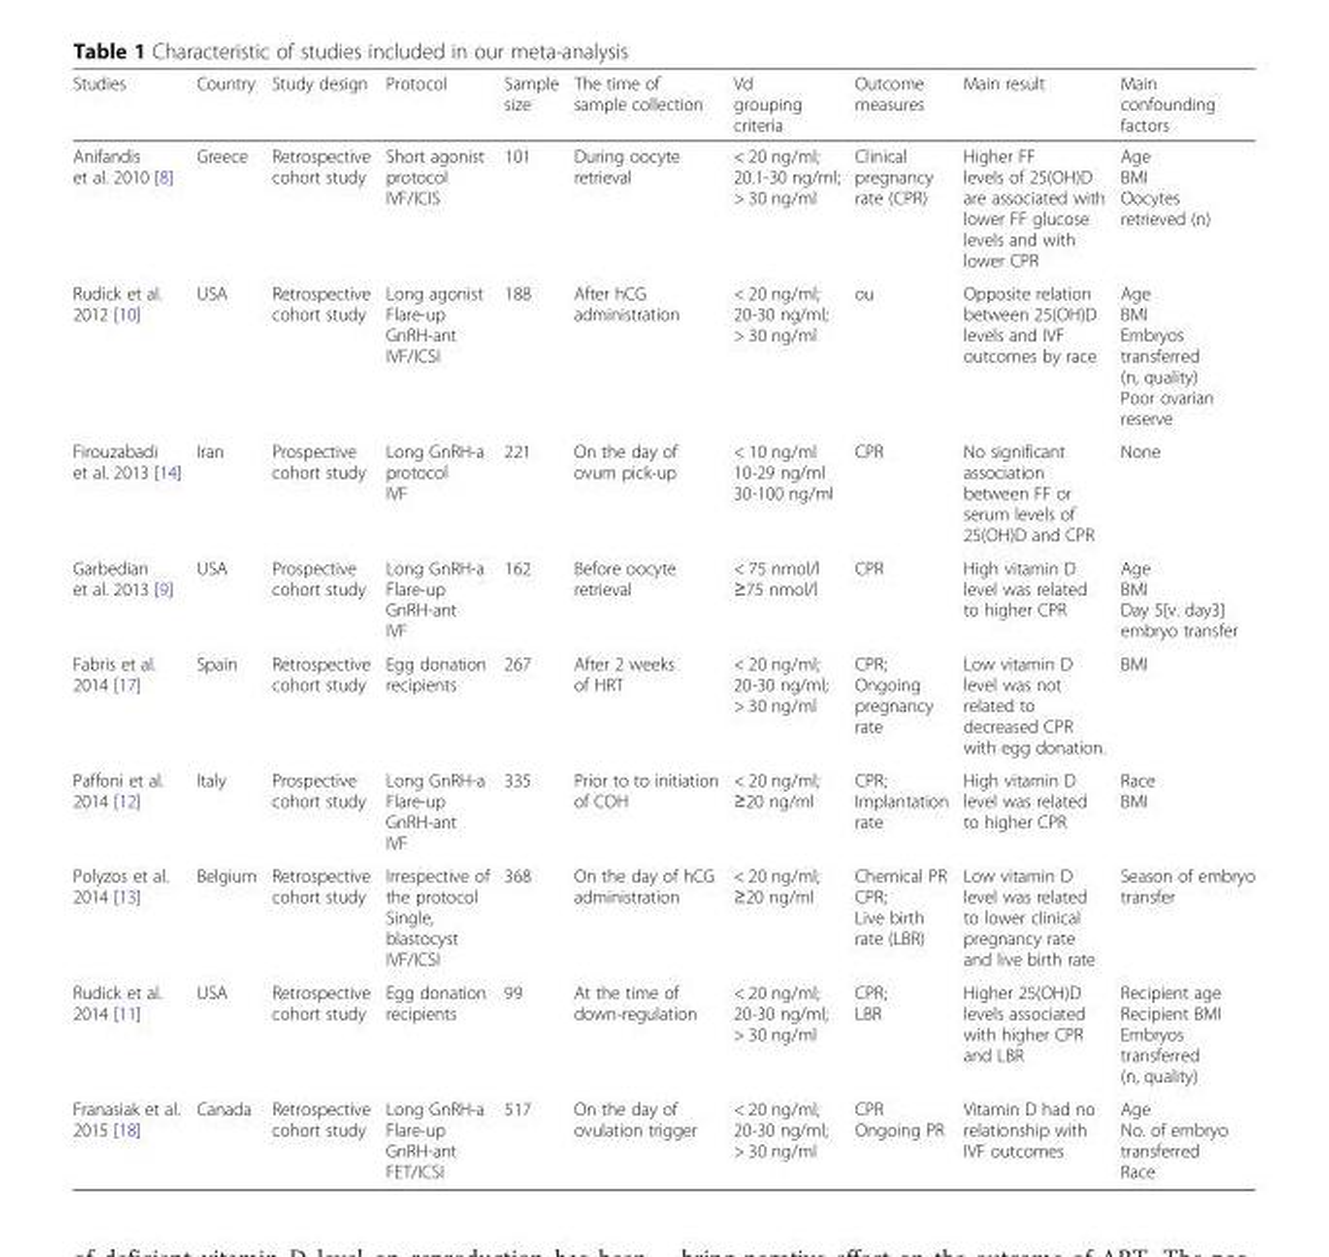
<table><thead><tr><td>Studies</td><td>Country</td><td>Study design</td><td>Protocol</td><td>Sample size</td><td>The time of sample collection</td><td>Vd grouping criteria</td><td>Outcome measures</td><td>Main result</td><td>Main confounding factors</td></tr></thead><tbody><tr><td>Anifandis et al. 2010 [8]</td><td>Greece</td><td>Retrospective cohort study</td><td>Short agonist protocol IVF/ICIS</td><td>101</td><td>During oocyte retrieval</td><td>&lt; 20 ng/ml; 20.1-30 ng/ml; &gt; 30 ng/ml</td><td>Clinical pregnancy rate (CPR)</td><td>Higher FF levels of 25(OH)D are associated with lower FF glucose levels and with lower CPR</td><td>Age BMI Oocytes retrieved (n)</td></tr><tr><td>Rudick et al. 2012 [10]</td><td>USA</td><td>Retrospective cohort study</td><td>Long agonist Flare-up GnRH-ant IVF/ICSI</td><td>188</td><td>After hCG administration</td><td>&lt; 20 ng/ml; 20-30 ng/ml; &gt; 30 ng/ml</td><td>ou</td><td>Opposite relation between 25(OH)D levels and IVF outcomes by race</td><td>Age BMI Embryos transferred (n, quality) Poor ovarian reserve</td></tr><tr><td>Firouzabadi et al. 2013 [14]</td><td>Iran</td><td>Prospective cohort study</td><td>Long GnRH-a protocol IVF</td><td>221</td><td>On the day of ovum pick-up</td><td>&lt; 10 ng/ml 10-29 ng/ml 30-100 ng/ml</td><td>CPR</td><td>No significant association between FF or serum levels of 25(OH)D and CPR</td><td>None</td></tr><tr><td>Garbedian et al. 2013 [9]</td><td>USA</td><td>Prospective cohort study</td><td>Long GnRH-a Flare-up GnRH-ant IVF</td><td>162</td><td>Before oocyte retrieval</td><td>&lt; 75 nmol/l ≥75 nmol/l</td><td>CPR</td><td>High vitamin D level was related to higher CPR</td><td>Age BMI Day 5[v. day3] embryo transfer</td></tr><tr><td>Fabris et al. 2014 [17]</td><td>Spain</td><td>Retrospective cohort study</td><td>Egg donation recipients</td><td>267</td><td>After 2 weeks of HRT</td><td>&lt; 20 ng/ml; 20-30 ng/ml; &gt; 30 ng/ml</td><td>CPR; Ongoing pregnancy rate</td><td>Low vitamin D level was not related to decreased CPR with egg donation.</td><td>BMI</td></tr><tr><td>Paffoni et al. 2014 [12]</td><td>Italy</td><td>Prospective cohort study</td><td>Long GnRH-a Flare-up GnRH-ant IVF</td><td>335</td><td>Prior to to initiation of COH</td><td>&lt; 20 ng/ml; ≥20 ng/ml</td><td>CPR; Implantation rate</td><td>High vitamin D level was related to higher CPR</td><td>Race BMI</td></tr><tr><td>Polyzos et al. 2014 [13]</td><td>Belgium</td><td>Retrospective cohort study</td><td>Irrespective of the protocol Single, blastocyst IVF/ICSI</td><td>368</td><td>On the day of hCG administration</td><td>&lt; 20 ng/ml; ≥20 ng/ml</td><td>Chemical PR CPR; Live birth rate (LBR)</td><td>Low vitamin D level was related to lower clinical pregnancy rate and live birth rate</td><td>Season of embryo transfer</td></tr><tr><td>Rudick et al. 2014 [11]</td><td>USA</td><td>Retrospective cohort study</td><td>Egg donation recipients</td><td>99</td><td>At the time of down-regulation</td><td>&lt; 20 ng/ml; 20-30 ng/ml; &gt; 30 ng/ml</td><td>CPR; LBR</td><td>Higher 25(OH)D levels associated with higher CPR and LBR</td><td>Recipient age Recipient BMI Embryos transferred (n, quality)</td></tr><tr><td>Franasiak et al. 2015 [18]</td><td>Canada</td><td>Retrospective cohort study</td><td>Long GnRH-a Flare-up GnRH-ant FET/ICSI</td><td>517</td><td>On the day of ovulation trigger</td><td>&lt; 20 ng/ml; 20-30 ng/ml; &gt; 30 ng/ml</td><td>CPR Ongoing PR</td><td>Vitamin D had no relationship with IVF outcomes</td><td>Age No. of embryo transferred Race</td></tr></tbody></table>